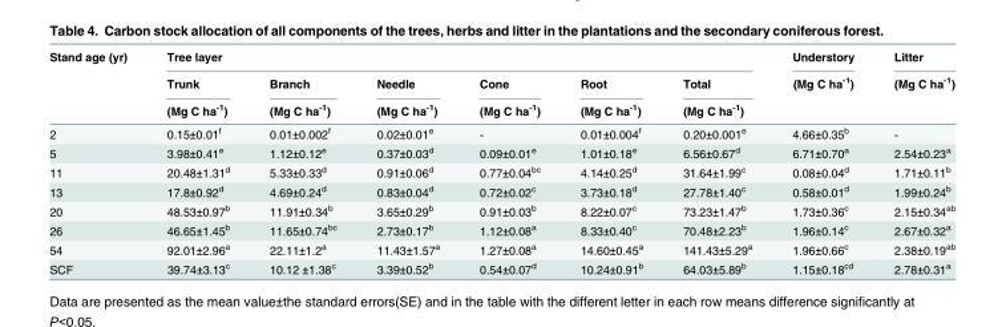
<table><thead><tr><td rowspan="3">Stand age (yr)</td><td colspan="6">Tree layer</td><td rowspan="3">Understory (Mg C ha<sup>-1</sup>)</td><td rowspan="3">Litter (Mg C ha<sup>-1</sup>)</td></tr><tr><td rowspan="2">Trunk (Mg C ha<sup>-1</sup>)</td><td rowspan="2">Branch (Mg C ha<sup>-1</sup>)</td><td rowspan="2">Needle (Mg C ha<sup>-1</sup>)</td><td rowspan="2">Cone (Mg C ha<sup>-1</sup>)</td><td rowspan="2">Root (Mg C ha<sup>-1</sup>)</td><td rowspan="2">Total (Mg C ha<sup>-1</sup>)</td></tr><tr></tr></thead><tbody><tr><td>2</td><td>0.15±0.01<sup>f</sup></td><td>0.01±0.002<sup>f</sup></td><td>0.02±0.01<sup>e</sup></td><td>-</td><td>0.01±0.004<sup>f</sup></td><td>0.20±0.001<sup>e</sup></td><td>4.66±0.35<sup>b</sup></td><td>-</td></tr><tr><td>5</td><td>3.98±0.41<sup>e</sup></td><td>1.12±0.12<sup>e</sup></td><td>0.37±0.03<sup>d</sup></td><td>0.09±0.01<sup>e</sup></td><td>1.01±0.18<sup>e</sup></td><td>6.56±0.67<sup>d</sup></td><td>6.71±0.70<sup>a</sup></td><td>2.54±0.23<sup>a</sup></td></tr><tr><td>11</td><td>20.48±1.31<sup>d</sup></td><td>5.33±0.33<sup>d</sup></td><td>0.91±0.06<sup>d</sup></td><td>0.77±0.04<sup>bc</sup></td><td>4.14±0.25<sup>d</sup></td><td>31.64±1.99<sup>c</sup></td><td>0.08±0.04<sup>d</sup></td><td>1.71±0.11<sup>b</sup></td></tr><tr><td>13</td><td>17.8±0.92<sup>d</sup></td><td>4.69±0.24<sup>d</sup></td><td>0.83±0.04<sup>d</sup></td><td>0.72±0.02<sup>c</sup></td><td>3.73±0.18<sup>d</sup></td><td>27.78±1.40<sup>c</sup></td><td>0.58±0.01<sup>d</sup></td><td>1.99±0.24<sup>b</sup></td></tr><tr><td>20</td><td>48.53±0.97<sup>b</sup></td><td>11.91±0.34<sup>b</sup></td><td>3.65±0.29<sup>b</sup></td><td>0.91±0.03<sup>b</sup></td><td>8.22±0.07<sup>c</sup></td><td>73.23±1.47<sup>b</sup></td><td>1.73±0.36<sup>c</sup></td><td>2.15±0.34<sup>ab</sup></td></tr><tr><td>26</td><td>46.65±1.45<sup>b</sup></td><td>11.65±0.74<sup>bc</sup></td><td>2.73±0.17<sup>b</sup></td><td>1.12±0.08<sup>a</sup></td><td>8.33±0.40<sup>c</sup></td><td>70.48±2.23<sup>b</sup></td><td>1.96±0.14<sup>c</sup></td><td>2.67±0.32<sup>a</sup></td></tr><tr><td>54</td><td>92.01±2.96<sup>a</sup></td><td>22.11±1.2<sup>a</sup></td><td>11.43±1.57<sup>a</sup></td><td>1.27±0.08<sup>a</sup></td><td>14.60±0.45<sup>a</sup></td><td>141.43±5.29<sup>a</sup></td><td>1.96±0.66<sup>c</sup></td><td>2.38±0.19<sup>ab</sup></td></tr><tr><td>SCF</td><td>39.74±3.13<sup>c</sup></td><td>10.12 ±1.38<sup>c</sup></td><td>3.39±0.52<sup>b</sup></td><td>0.54±0.07<sup>d</sup></td><td>10.24±0.91<sup>b</sup></td><td>64.03±5.89<sup>b</sup></td><td>1.15±0.18<sup>cd</sup></td><td>2.78±0.31<sup>a</sup></td></tr></tbody></table>